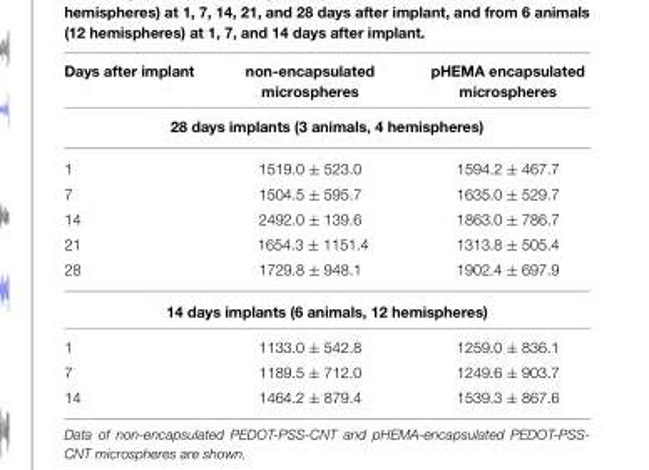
<table><thead><tr><td>Days after implant</td><td>non-encapsulated microspheres</td><td>pHEMA encapsulated microspheres</td></tr><tr><td colspan="3">28 days implants (3 animals, 4 hemispheres)</td></tr></thead><tbody><tr><td>1</td><td>1519.0 ± 523.0</td><td>1594.2 ± 467.7</td></tr><tr><td>7</td><td>1504.5 ± 595.7</td><td>1635.0 ± 529.7</td></tr><tr><td>14</td><td>2492.0 ± 139.6</td><td>1863.0 ± 786.7</td></tr><tr><td>21</td><td>1654.3 ± 1151.4</td><td>1313.8 ± 505.4</td></tr><tr><td>28</td><td>1729.8 ± 948.1</td><td>1902.4 ± 697.9</td></tr><tr><td colspan="3">14 days implants (6 animals, 12 hemispheres)</td></tr><tr><td>1</td><td>1133.0 ± 542.8</td><td>1259.0 ± 836.1</td></tr><tr><td>7</td><td>1189.5 ± 712.0</td><td>1249.6 ± 903.7</td></tr><tr><td>14</td><td>1464.2 ± 879.4</td><td>1539.3 ± 867.6</td></tr></tbody></table>